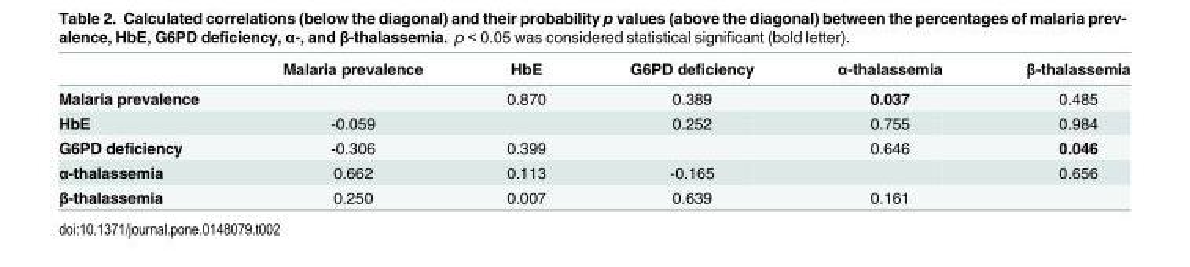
<table><thead><tr><td></td><td>Malaria prevalence</td><td>HbE</td><td>G6PD deficiency</td><td>α-thalassemia</td><td>β-thalassemia</td></tr></thead><tbody><tr><td>Malaria prevalence</td><td></td><td>0.870</td><td>0.389</td><td>0.037</td><td>0.485</td></tr><tr><td>HbE</td><td>-0.059</td><td></td><td>0.252</td><td>0.755</td><td>0.984</td></tr><tr><td>G6PD deficiency</td><td>-0.306</td><td>0.399</td><td></td><td>0.646</td><td>0.046</td></tr><tr><td>α-thalassemia</td><td>0.662</td><td>0.113</td><td>-0.165</td><td></td><td>0.656</td></tr><tr><td>β-thalassemia</td><td>0.250</td><td>0.007</td><td>0.639</td><td>0.161</td><td></td></tr></tbody></table>